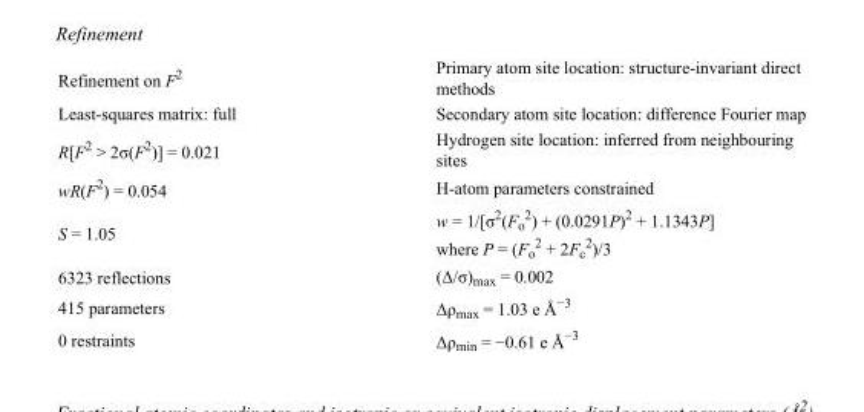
<table><tbody><tr><td>Refinement on F<sup>2</sup></td><td>Primary atom site location: structure-invariant direct methods</td></tr><tr><td>Least-squares matrix: full</td><td>Secondary atom site location: difference Fourier map</td></tr><tr><td>R[F<sup>2</sup> &gt; 2σ(F<sup>2</sup>)] = 0.021</td><td>Hydrogen site location: inferred from neighbouring sites</td></tr><tr><td>wR(F<sup>2</sup>) = 0.054</td><td>H-atom parameters constrained</td></tr><tr><td>S = 1.05</td><td>w = 1/[σ<sup>2</sup>(F<sub>o</sub> <sup>2</sup>) + (0.0291P)<sup>2</sup> + 1.1343P] where P = (F<sub>o</sub> <sup>2</sup> + 2F<sub>c</sub> <sup>2</sup>)/3</td></tr><tr><td>6323 reflections</td><td>(Δ/σ)<sub>max</sub> = 0.002</td></tr><tr><td>415 parameters</td><td>Δρmax = 1.03 e Å−3</td></tr><tr><td>0 restraints</td><td>Δρ<sub>min</sub> = −0.61 e Å<sup>−3</sup></td></tr></tbody></table>